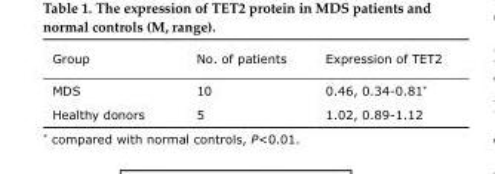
<table><thead><tr><td>Group</td><td>No. of patients</td><td>Expression of TET2</td></tr></thead><tbody><tr><td>MDS</td><td>10</td><td>0.46, 0.34-0.81*</td></tr><tr><td>Healthy donors</td><td>5</td><td>1.02, 0.89-1.12</td></tr></tbody></table>